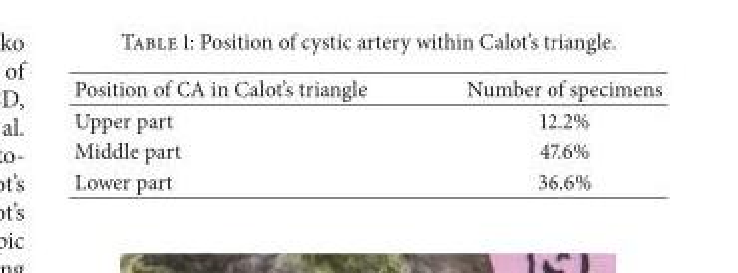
<table><thead><tr><td>Position of CA in Calot’s triangle</td><td>Number of specimens</td></tr></thead><tbody><tr><td>Upper part</td><td>12.2%</td></tr><tr><td>Middle part</td><td>47.6%</td></tr><tr><td>Lower part</td><td>36.6%</td></tr></tbody></table>